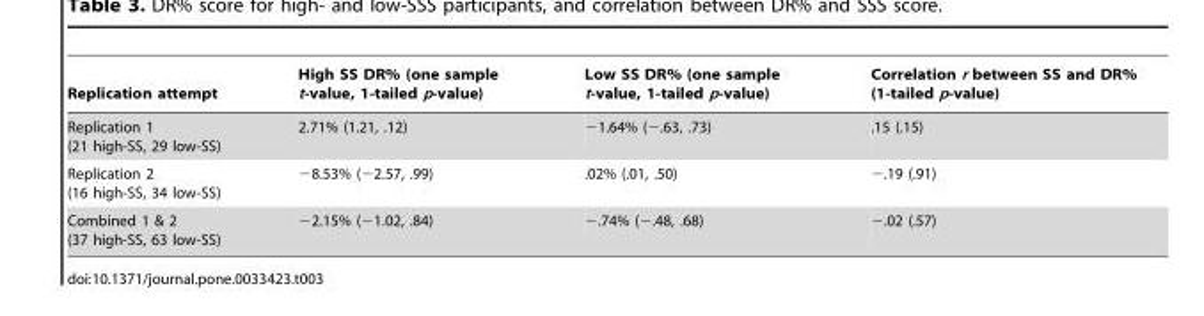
<table><thead><tr><td>Replication attempt</td><td>High SS DR% (one sample t-value, 1-tailed p-value)</td><td>Low SS DR% (one sample t-value, 1-tailed p-value)</td><td>Correlation r between SS and DR% (1-tailed p-value)</td></tr></thead><tbody><tr><td>Replication 1 (21 high-SS, 29 low-SS)</td><td>2.71% (1.21, .12)</td><td>−1.64% (−.63, .73)</td><td>.15 (.15)</td></tr><tr><td>Replication 2 (16 high-SS, 34 low-SS)</td><td>−8.53% (−2.57, .99)</td><td>.02% (.01, .50)</td><td>−.19 (.91)</td></tr><tr><td>Combined 1 &amp; 2 (37 high-SS, 63 low-SS)</td><td>−2.15% (−1.02, .84)</td><td>−.74% (−.48, .68)</td><td>−.02 (.57)</td></tr></tbody></table>